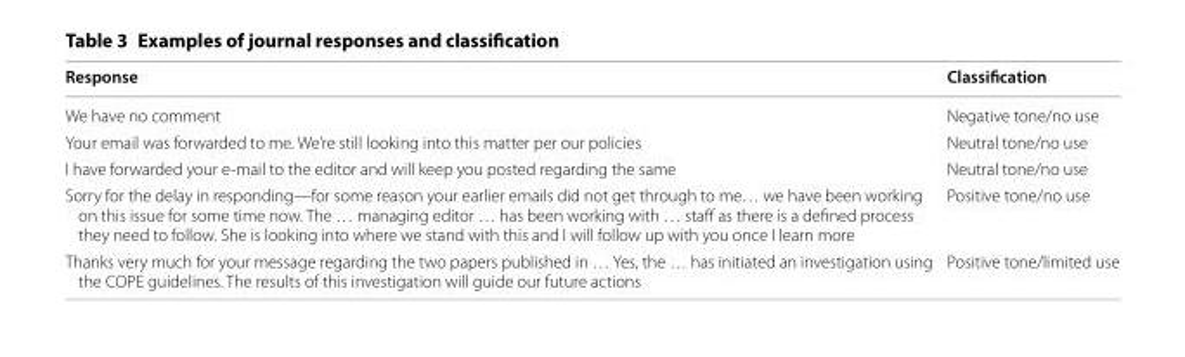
<table><thead><tr><td>Response</td><td>Classification</td></tr></thead><tbody><tr><td>We have no comment</td><td>Negative tone/no use</td></tr><tr><td>Your email was forwarded to me. We’re still looking into this matter per our policies</td><td>Neutral tone/no use</td></tr><tr><td>I have forwarded your e-mail to the editor and will keep you posted regarding the same</td><td>Neutral tone/no use</td></tr><tr><td>Sorry for the delay in responding—for some reason your earlier emails did not get through to me… we have been working on this issue for some time now. The … managing editor … has been working with … staff as there is a defined process they need to follow. She is looking into where we stand with this and I will follow up with you once I learn more</td><td>Positive tone/no use</td></tr><tr><td>Thanks very much for your message regarding the two papers published in … Yes, the … has initiated an investigation using the COPE guidelines. The results of this investigation will guide our future actions</td><td>Positive tone/limited use</td></tr></tbody></table>